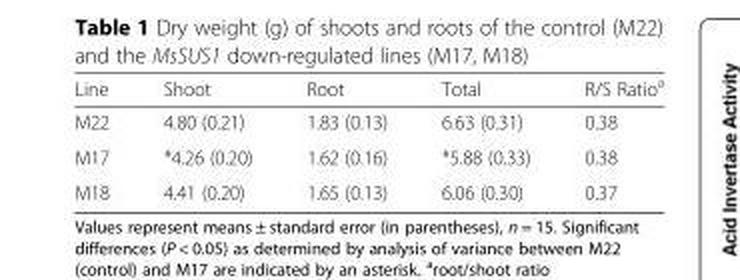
<table><thead><tr><td>Line</td><td>Shoot</td><td>Root</td><td>Total</td><td>R/S Ratio<sup>a</sup></td></tr></thead><tbody><tr><td>M22</td><td>4.80 (0.21)</td><td>1.83 (0.13)</td><td>6.63 (0.31)</td><td>0.38</td></tr><tr><td>M17</td><td>*4.26 (0.20)</td><td>1.62 (0.16)</td><td>*5.88 (0.33)</td><td>0.38</td></tr><tr><td>M18</td><td>4.41 (0.20)</td><td>1.65 (0.13)</td><td>6.06 (0.30)</td><td>0.37</td></tr></tbody></table>